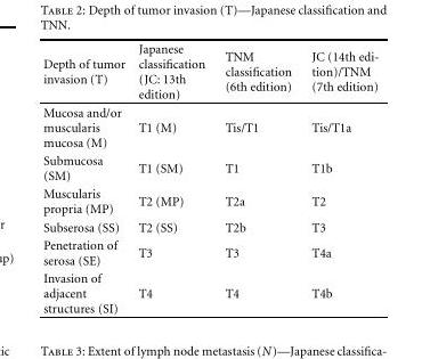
<table><thead><tr><td>Depth of tumor invasion (T)</td><td>Japanese classification (JC: 13th edition)</td><td>TNM classification (6th edition)</td><td>JC (14th edi- tion)/TNM (7th edition)</td></tr></thead><tbody><tr><td>Mucosa and/or muscularis mucosa (M)</td><td>T1 (M)</td><td>Tis/T1</td><td>Tis/T1a</td></tr><tr><td>Submucosa (SM)</td><td>T1 (SM)</td><td>T1</td><td>T1b</td></tr><tr><td>Muscularis propria (MP)</td><td>T2 (MP)</td><td>T2a</td><td>T2</td></tr><tr><td>Subserosa (SS)</td><td>T2 (SS)</td><td>T2b</td><td>T3</td></tr><tr><td>Penetration of serosa (SE)</td><td>T3</td><td>T3</td><td>T4a</td></tr><tr><td>Invasion of adjacent structures (SI)</td><td>T4</td><td>T4</td><td>T4b</td></tr></tbody></table>